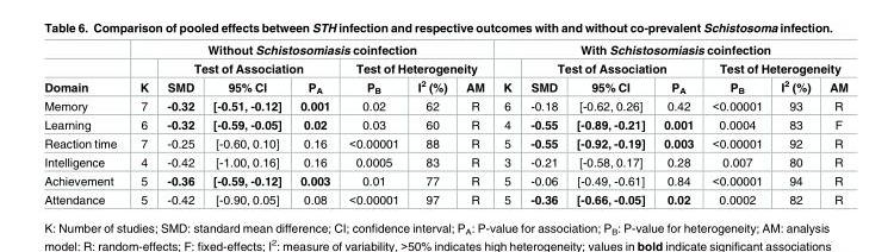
<table><thead><tr><td rowspan="3">Domain</td><td colspan="7">Without Schistosomiasis coinfection</td><td colspan="7">With Schistosomiasis coinfection</td></tr><tr><td rowspan="2">K</td><td colspan="3">Test of Association</td><td colspan="3">Test of Heterogeneity</td><td rowspan="2">K</td><td colspan="3">Test of Association</td><td colspan="3">Test of Heterogeneity</td></tr><tr><td>SMD</td><td>95% CI</td><td>P<sub>A</sub></td><td>P<sub>B</sub></td><td>I<sup>2</sup> (%)</td><td>AM</td><td>SMD</td><td>95% CI</td><td>P<sub>A</sub></td><td>P<sub>B</sub></td><td>I<sup>2</sup> (%)</td><td>AM</td></tr></thead><tbody><tr><td>Memory</td><td>7</td><td>-0.32</td><td>[-0.51, -0.12]</td><td>0.001</td><td>0.02</td><td>62</td><td>R</td><td>6</td><td>-0.18</td><td>[-0.62, 0.26]</td><td>0.42</td><td>&lt;0.00001</td><td>93</td><td>R</td></tr><tr><td>Learning</td><td>6</td><td>-0.32</td><td>[-0.59, -0.05]</td><td>0.02</td><td>0.03</td><td>60</td><td>R</td><td>4</td><td>-0.55</td><td>[-0.89, -0.21]</td><td>0.001</td><td>0.0004</td><td>83</td><td>F</td></tr><tr><td>Reaction time</td><td>7</td><td>-0.25</td><td>[-0.60, 0.10]</td><td>0.16</td><td>&lt;0.00001</td><td>88</td><td>R</td><td>5</td><td>-0.55</td><td>[-0.92, -0.19]</td><td>0.003</td><td>&lt;0.00001</td><td>92</td><td>R</td></tr><tr><td>Intelligence</td><td>4</td><td>-0.42</td><td>[-1.00, 0.16]</td><td>0.16</td><td>0.0005</td><td>83</td><td>R</td><td>3</td><td>-0.21</td><td>[-0.58, 0.17]</td><td>0.28</td><td>0.007</td><td>80</td><td>R</td></tr><tr><td>Achievement</td><td>5</td><td>-0.36</td><td>[-0.59, -0.12]</td><td>0.003</td><td>0.01</td><td>77</td><td>R</td><td>5</td><td>-0.06</td><td>[-0.49, -0.61]</td><td>0.84</td><td>&lt;0.00001</td><td>94</td><td>R</td></tr><tr><td>Attendance</td><td>5</td><td>-0.42</td><td>[-0.90, 0.05]</td><td>0.08</td><td>&lt;0.00001</td><td>97</td><td>R</td><td>5</td><td>-0.36</td><td>[-0.66, -0.05]</td><td>0.02</td><td>0.0002</td><td>82</td><td>R</td></tr></tbody></table>